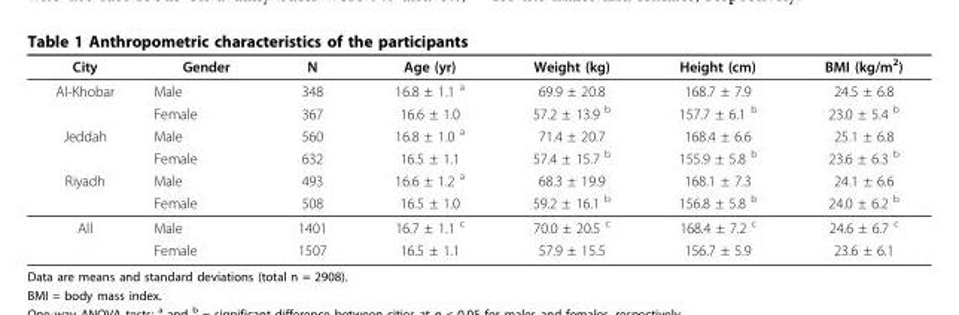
<table><thead><tr><td>City</td><td>Gender</td><td>N</td><td>Age (yr)</td><td>Weight (kg)</td><td>Height (cm)</td><td>BMI (kg/m<sup>2</sup>)</td></tr></thead><tbody><tr><td rowspan="2">Al-Khobar</td><td>Male</td><td>348</td><td>16.8 ± 1.1 <sup>a</sup></td><td>69.9 ± 20.8</td><td>168.7 ± 7.9</td><td>24.5 ± 6.8</td></tr><tr><td>Female</td><td>367</td><td>16.6 ± 1.0</td><td>57.2 ± 13.9 <sup>b</sup></td><td>157.7 ± 6.1 <sup>b</sup></td><td>23.0 ± 5.4 <sup>b</sup></td></tr><tr><td rowspan="2">Jeddah</td><td>Male</td><td>560</td><td>16.8 ± 1.0 <sup>a</sup></td><td>71.4 ± 20.7</td><td>168.4 ± 6.6</td><td>25.1 ± 6.8</td></tr><tr><td>Female</td><td>632</td><td>16.5 ± 1.1</td><td>57.4 ± 15.7 <sup>b</sup></td><td>155.9 ± 5.8 <sup>b</sup></td><td>23.6 ± 6.3 <sup>b</sup></td></tr><tr><td rowspan="2">Riyadh</td><td>Male</td><td>493</td><td>16.6 ± 1.2 <sup>a</sup></td><td>68.3 ± 19.9</td><td>168.1 ± 7.3</td><td>24.1 ± 6.6</td></tr><tr><td>Female</td><td>508</td><td>16.5 ± 1.0</td><td>59.2 ± 16.1 <sup>b</sup></td><td>156.8 ± 5.8 <sup>b</sup></td><td>24.0 ± 6.2 <sup>b</sup></td></tr><tr><td rowspan="2">All</td><td>Male</td><td>1401</td><td>16.7 ± 1.1 <sup>c</sup></td><td>70.0 ± 20.5 <sup>c</sup></td><td>168.4 ± 7.2 <sup>c</sup></td><td>24.6 ± 6.7 <sup>c</sup></td></tr><tr><td>Female</td><td>1507</td><td>16.5 ± 1.1</td><td>57.9 ± 15.5</td><td>156.7 ± 5.9</td><td>23.6 ± 6.1</td></tr></tbody></table>